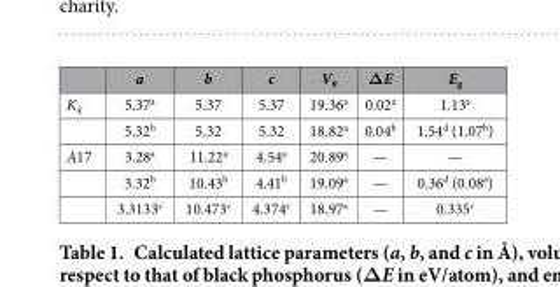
<table><thead><tr><td></td><td>a</td><td>b</td><td>c</td><td>V<sub>0</sub></td><td>ΔE</td><td>E<sub>g</sub></td></tr></thead><tbody><tr><td rowspan="2">K<sub>4</sub></td><td>5.37<sup>a</sup></td><td>5.37</td><td>5.37</td><td>19.36<sup>a</sup></td><td>0.02<sup>a</sup></td><td>1.13<sup>a</sup></td></tr><tr><td>5.32<sup>b</sup></td><td>5.32</td><td>5.32</td><td>18.82<sup>a</sup></td><td>0.04<sup>b</sup></td><td>1.54<sup>d</sup> (1.07<sup>b</sup>)</td></tr><tr><td rowspan="3">A17</td><td>3.28<sup>a</sup></td><td>11.22<sup>a</sup></td><td>4.54<sup>a</sup></td><td>20.89<sup>a</sup></td><td>—</td><td>—</td></tr><tr><td>3.32<sup>b</sup></td><td>10.43<sup>b</sup></td><td>4.41<sup>b</sup></td><td>19.09<sup>a</sup></td><td>—</td><td>0.36<sup>d</sup> (0.08<sup>a</sup>)</td></tr><tr><td>3.3133<sup>c</sup></td><td>10.473<sup>c</sup></td><td>4.374<sup>c</sup></td><td>18.97<sup>a</sup></td><td>—</td><td>0.335<sup>c</sup></td></tr></tbody></table>